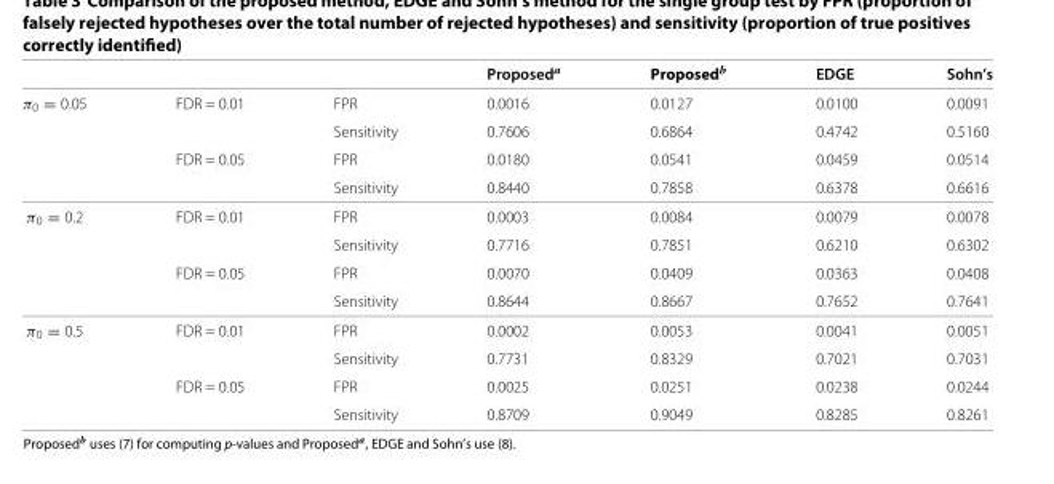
<table><thead><tr><td></td><td></td><td></td><td>Proposed<sup>a</sup></td><td>Proposed<sup>b</sup></td><td>EDGE</td><td>Sohn’s</td></tr></thead><tbody><tr><td rowspan="4">0.05</td><td>FDR = 0.01</td><td>FPR</td><td>0.0016</td><td>0.0127</td><td>0.0100</td><td>0.0091</td></tr><tr><td></td><td>Sensitivity</td><td>0.7606</td><td>0.6864</td><td>0.4742</td><td>0.5160</td></tr><tr><td>FDR = 0.05</td><td>FPR</td><td>0.0180</td><td>0.0541</td><td>0.0459</td><td>0.0514</td></tr><tr><td></td><td>Sensitivity</td><td>0.8440</td><td>0.7858</td><td>0.6378</td><td>0.6616</td></tr><tr><td rowspan="4">0.2</td><td>FDR = 0.01</td><td>FPR</td><td>0.0003</td><td>0.0084</td><td>0.0079</td><td>0.0078</td></tr><tr><td></td><td>Sensitivity</td><td>0.7716</td><td>0.7851</td><td>0.6210</td><td>0.6302</td></tr><tr><td>FDR = 0.05</td><td>FPR</td><td>0.0070</td><td>0.0409</td><td>0.0363</td><td>0.0408</td></tr><tr><td></td><td>Sensitivity</td><td>0.8644</td><td>0.8667</td><td>0.7652</td><td>0.7641</td></tr><tr><td rowspan="4">0.5</td><td>FDR = 0.01</td><td>FPR</td><td>0.0002</td><td>0.0053</td><td>0.0041</td><td>0.0051</td></tr><tr><td></td><td>Sensitivity</td><td>0.7731</td><td>0.8329</td><td>0.7021</td><td>0.7031</td></tr><tr><td>FDR = 0.05</td><td>FPR</td><td>0.0025</td><td>0.0251</td><td>0.0238</td><td>0.0244</td></tr><tr><td></td><td>Sensitivity</td><td>0.8709</td><td>0.9049</td><td>0.8285</td><td>0.8261</td></tr></tbody></table>